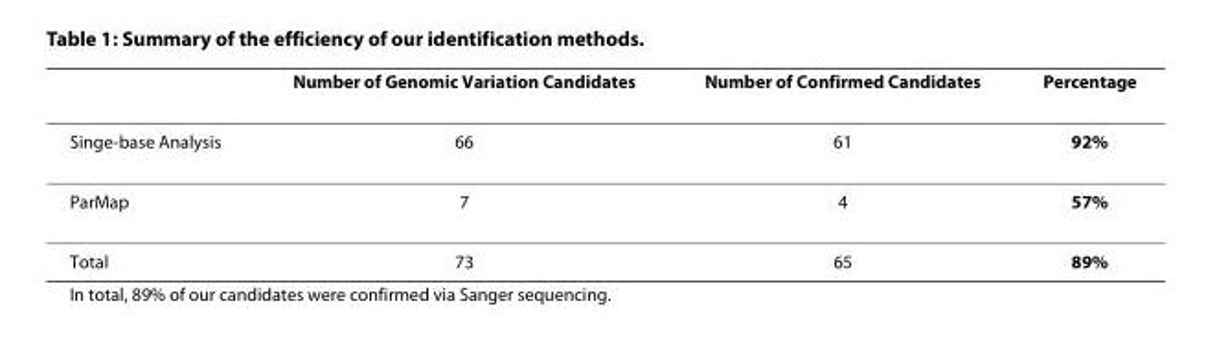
<table><thead><tr><td></td><td>Number of Genomic Variation Candidates</td><td>Number of Confirmed Candidates</td><td>Percentage</td></tr></thead><tbody><tr><td>Singe-base Analysis</td><td>66</td><td>61</td><td>92%</td></tr><tr><td>ParMap</td><td>7</td><td>4</td><td>57%</td></tr><tr><td>Total</td><td>73</td><td>65</td><td>89%</td></tr></tbody></table>